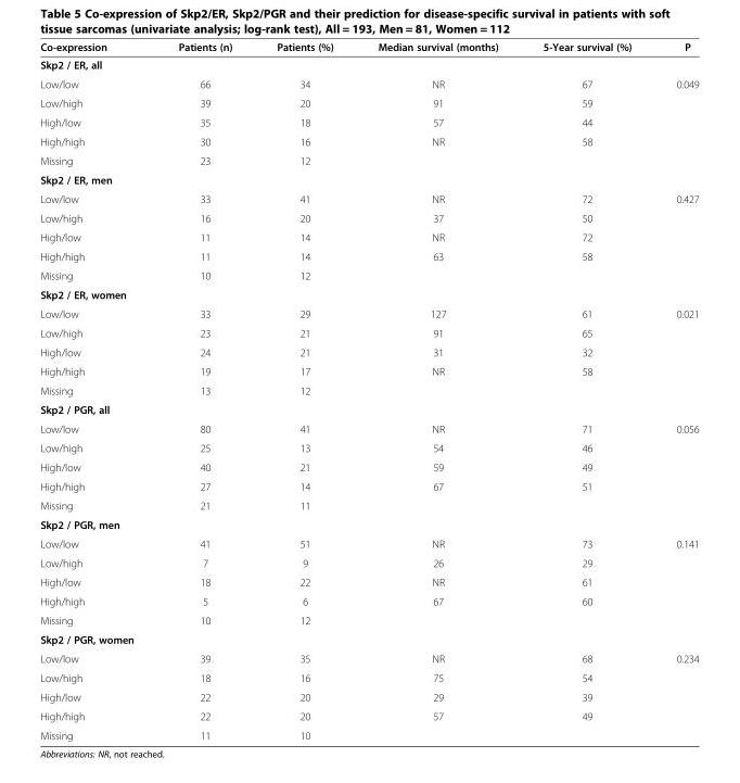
<table><thead><tr><td>Co-expression</td><td>Patients (n)</td><td>Patients (%)</td><td>Median survival (months)</td><td>5-Year survival (%)</td><td>P</td></tr></thead><tbody><tr><td colspan="6">Skp2 / ER, all</td></tr><tr><td>Low/low</td><td>66</td><td>34</td><td>NR</td><td>67</td><td>0.049</td></tr><tr><td>Low/high</td><td>39</td><td>20</td><td>91</td><td>59</td><td></td></tr><tr><td>High/low</td><td>35</td><td>18</td><td>57</td><td>44</td><td></td></tr><tr><td>High/high</td><td>30</td><td>16</td><td>NR</td><td>58</td><td></td></tr><tr><td>Missing</td><td>23</td><td>12</td><td></td><td></td><td></td></tr><tr><td colspan="6">Skp2 / ER, men</td></tr><tr><td>Low/low</td><td>33</td><td>41</td><td>NR</td><td>72</td><td>0.427</td></tr><tr><td>Low/high</td><td>16</td><td>20</td><td>37</td><td>50</td><td></td></tr><tr><td>High/low</td><td>11</td><td>14</td><td>NR</td><td>72</td><td></td></tr><tr><td>High/high</td><td>11</td><td>14</td><td>63</td><td>58</td><td></td></tr><tr><td>Missing</td><td>10</td><td>12</td><td></td><td></td><td></td></tr><tr><td colspan="6">Skp2 / ER, women</td></tr><tr><td>Low/low</td><td>33</td><td>29</td><td>127</td><td>61</td><td>0.021</td></tr><tr><td>Low/high</td><td>23</td><td>21</td><td>91</td><td>65</td><td></td></tr><tr><td>High/low</td><td>24</td><td>21</td><td>31</td><td>32</td><td></td></tr><tr><td>High/high</td><td>19</td><td>17</td><td>NR</td><td>58</td><td></td></tr><tr><td>Missing</td><td>13</td><td>12</td><td></td><td></td><td></td></tr><tr><td colspan="6">Skp2 / PGR, all</td></tr><tr><td>Low/low</td><td>80</td><td>41</td><td>NR</td><td>71</td><td>0.056</td></tr><tr><td>Low/high</td><td>25</td><td>13</td><td>54</td><td>46</td><td></td></tr><tr><td>High/low</td><td>40</td><td>21</td><td>59</td><td>49</td><td></td></tr><tr><td>High/high</td><td>27</td><td>14</td><td>67</td><td>51</td><td></td></tr><tr><td>Missing</td><td>21</td><td>11</td><td></td><td></td><td></td></tr><tr><td colspan="6">Skp2 / PGR, men</td></tr><tr><td>Low/low</td><td>41</td><td>51</td><td>NR</td><td>73</td><td>0.141</td></tr><tr><td>Low/high</td><td>7</td><td>9</td><td>26</td><td>29</td><td></td></tr><tr><td>High/low</td><td>18</td><td>22</td><td>NR</td><td>61</td><td></td></tr><tr><td>High/high</td><td>5</td><td>6</td><td>67</td><td>60</td><td></td></tr><tr><td>Missing</td><td>10</td><td>12</td><td></td><td></td><td></td></tr><tr><td colspan="6">Skp2 / PGR, women</td></tr><tr><td>Low/low</td><td>39</td><td>35</td><td>NR</td><td>68</td><td>0.234</td></tr><tr><td>Low/high</td><td>18</td><td>16</td><td>75</td><td>54</td><td></td></tr><tr><td>High/low</td><td>22</td><td>20</td><td>29</td><td>39</td><td></td></tr><tr><td>High/high</td><td>22</td><td>20</td><td>57</td><td>49</td><td></td></tr><tr><td>Missing</td><td>11</td><td>10</td><td></td><td></td><td></td></tr></tbody></table>